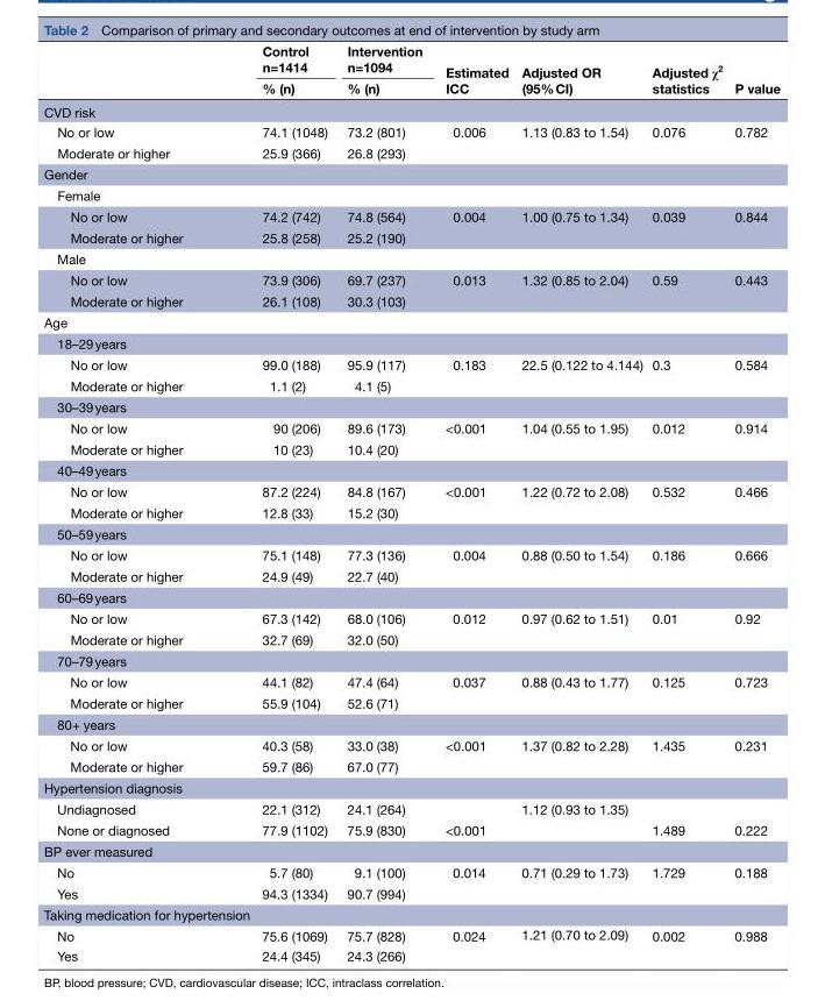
<table><thead><tr><td rowspan="2"></td><td rowspan="2">Control n=1414 % (n)</td><td rowspan="2">Intervention n=1094 % (n)</td><td rowspan="2">Estimated ICC</td><td rowspan="2">Adjusted OR (95% CI)</td><td rowspan="2">Adjusted χ<sup>2</sup> statistics</td><td rowspan="2">P value</td></tr><tr></tr></thead><tbody><tr><td colspan="7">CVD risk</td></tr><tr><td>No or low</td><td>74.1 (1048)</td><td>73.2 (801)</td><td>0.006</td><td rowspan="2">1.13 (0.83 to 1.54)</td><td>0.076</td><td>0.782</td></tr><tr><td>Moderate or higher</td><td>25.9 (366)</td><td>26.8 (293)</td><td></td><td></td><td></td></tr><tr><td colspan="7">Gender</td></tr><tr><td colspan="7">Female</td></tr><tr><td>No or low</td><td>74.2 (742)</td><td>74.8 (564)</td><td>0.004</td><td rowspan="2">1.00 (0.75 to 1.34)</td><td>0.039</td><td>0.844</td></tr><tr><td>Moderate or higher</td><td>25.8 (258)</td><td>25.2 (190)</td><td></td><td></td><td></td></tr><tr><td colspan="7">Male</td></tr><tr><td>No or low</td><td>73.9 (306)</td><td>69.7 (237)</td><td>0.013</td><td rowspan="2">1.32 (0.85 to 2.04)</td><td>0.59</td><td>0.443</td></tr><tr><td>Moderate or higher</td><td>26.1 (108)</td><td>30.3 (103)</td><td></td><td></td><td></td></tr><tr><td colspan="7">Age</td></tr><tr><td colspan="7">18–29 years</td></tr><tr><td>No or low</td><td>99.0 (188)</td><td>95.9 (117)</td><td>0.183</td><td rowspan="2">22.5 (0.122 to 4.144)</td><td>0.3</td><td>0.584</td></tr><tr><td>Moderate or higher</td><td>1.1 (2)</td><td>4.1 (5)</td><td></td><td></td><td></td></tr><tr><td colspan="7">30–39 years</td></tr><tr><td>No or low</td><td>90 (206)</td><td>89.6 (173)</td><td>&lt;0.001</td><td rowspan="2">1.04 (0.55 to 1.95)</td><td>0.012</td><td>0.914</td></tr><tr><td>Moderate or higher</td><td>10 (23)</td><td>10.4 (20)</td><td></td><td></td><td></td></tr><tr><td colspan="7">40–49 years</td></tr><tr><td>No or low</td><td>87.2 (224)</td><td>84.8 (167)</td><td>&lt;0.001</td><td rowspan="2">1.22 (0.72 to 2.08)</td><td>0.532</td><td>0.466</td></tr><tr><td>Moderate or higher</td><td>12.8 (33)</td><td>15.2 (30)</td><td></td><td></td><td></td></tr><tr><td colspan="7">50–59 years</td></tr><tr><td>No or low</td><td>75.1 (148)</td><td>77.3 (136)</td><td>0.004</td><td rowspan="2">0.88 (0.50 to 1.54)</td><td>0.186</td><td>0.666</td></tr><tr><td>Moderate or higher</td><td>24.9 (49)</td><td>22.7 (40)</td><td></td><td></td><td></td></tr><tr><td colspan="7">60–69 years</td></tr><tr><td>No or low</td><td>67.3 (142)</td><td>68.0 (106)</td><td>0.012</td><td rowspan="2">0.97 (0.62 to 1.51)</td><td>0.01</td><td>0.92</td></tr><tr><td>Moderate or higher</td><td>32.7 (69)</td><td>32.0 (50)</td><td></td><td></td><td></td></tr><tr><td colspan="7">70–79 years</td></tr><tr><td>No or low</td><td>44.1 (82)</td><td>47.4 (64)</td><td>0.037</td><td rowspan="2">0.88 (0.43 to 1.77)</td><td>0.125</td><td>0.723</td></tr><tr><td>Moderate or higher</td><td>55.9 (104)</td><td>52.6 (71)</td><td></td><td></td><td></td></tr><tr><td colspan="7">80+ years</td></tr><tr><td>No or low</td><td>40.3 (58)</td><td>33.0 (38)</td><td>&lt;0.001</td><td rowspan="2">1.37 (0.82 to 2.28)</td><td>1.435</td><td>0.231</td></tr><tr><td>Moderate or higher</td><td>59.7 (86)</td><td>67.0 (77)</td><td></td><td></td><td></td></tr><tr><td colspan="7">Hypertension diagnosis</td></tr><tr><td>Undiagnosed</td><td>22.1 (312)</td><td>24.1 (264)</td><td></td><td rowspan="2">1.12 (0.93 to 1.35)</td><td></td><td></td></tr><tr><td>None or diagnosed</td><td>77.9 (1102)</td><td>75.9 (830)</td><td>&lt;0.001</td><td>1.489</td><td>0.222</td></tr><tr><td colspan="7">BP ever measured</td></tr><tr><td>No</td><td>5.7 (80)</td><td>9.1 (100)</td><td>0.014</td><td rowspan="2">0.71 (0.29 to 1.73)</td><td>1.729</td><td>0.188</td></tr><tr><td>Yes</td><td>94.3 (1334)</td><td>90.7 (994)</td><td></td><td></td><td></td></tr><tr><td colspan="7">Taking medication for hypertension</td></tr><tr><td>No</td><td>75.6 (1069)</td><td>75.7 (828)</td><td>0.024</td><td rowspan="2">1.21 (0.70 to 2.09)</td><td>0.002</td><td>0.988</td></tr><tr><td>Yes</td><td>24.4 (345)</td><td>24.3 (266)</td><td></td><td></td><td></td></tr></tbody></table>